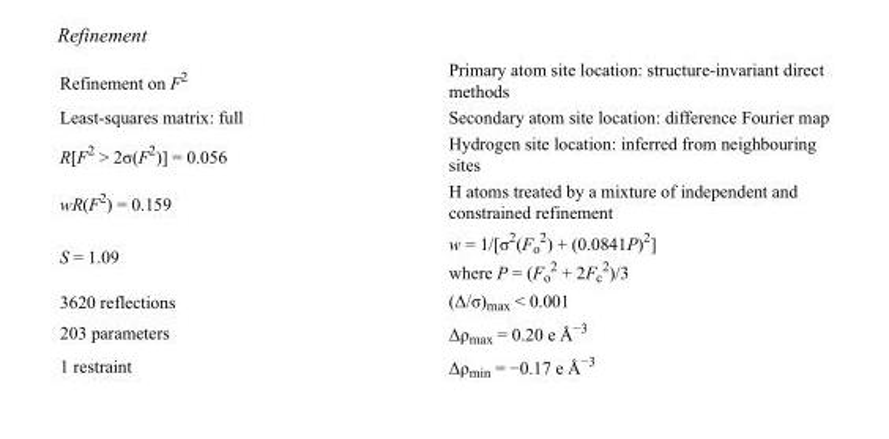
<table><tbody><tr><td>Refinement on F<sup>2</sup></td><td>Primary atom site location: structure-invariant direct methods</td></tr><tr><td>Least-squares matrix: full</td><td>Secondary atom site location: difference Fourier map</td></tr><tr><td>R[F<sup>2</sup> &gt; 2σ(F<sup>2</sup>)] = 0.056</td><td>Hydrogen site location: inferred from neighbouring sites</td></tr><tr><td>wR(F<sup>2</sup>) = 0.159</td><td>H atoms treated by a mixture of independent and constrained refinement</td></tr><tr><td>S = 1.09</td><td>w = 1/[σ<sup>2</sup>(F<sub>o</sub> <sup>2</sup>) + (0.0841P)<sup>2</sup>] where P = (F<sub>o</sub> <sup>2</sup> + 2F<sub>c</sub> <sup>2</sup>)/3</td></tr><tr><td>3620 reflections</td><td>(Δ/σ)<sub>max</sub> &lt; 0.001</td></tr><tr><td>203 parameters</td><td>Δρ<sub>max</sub> = 0.20 e Å<sup>−3</sup></td></tr><tr><td>1 restraint</td><td>Δρmin = −0.17 e Å−3</td></tr></tbody></table>